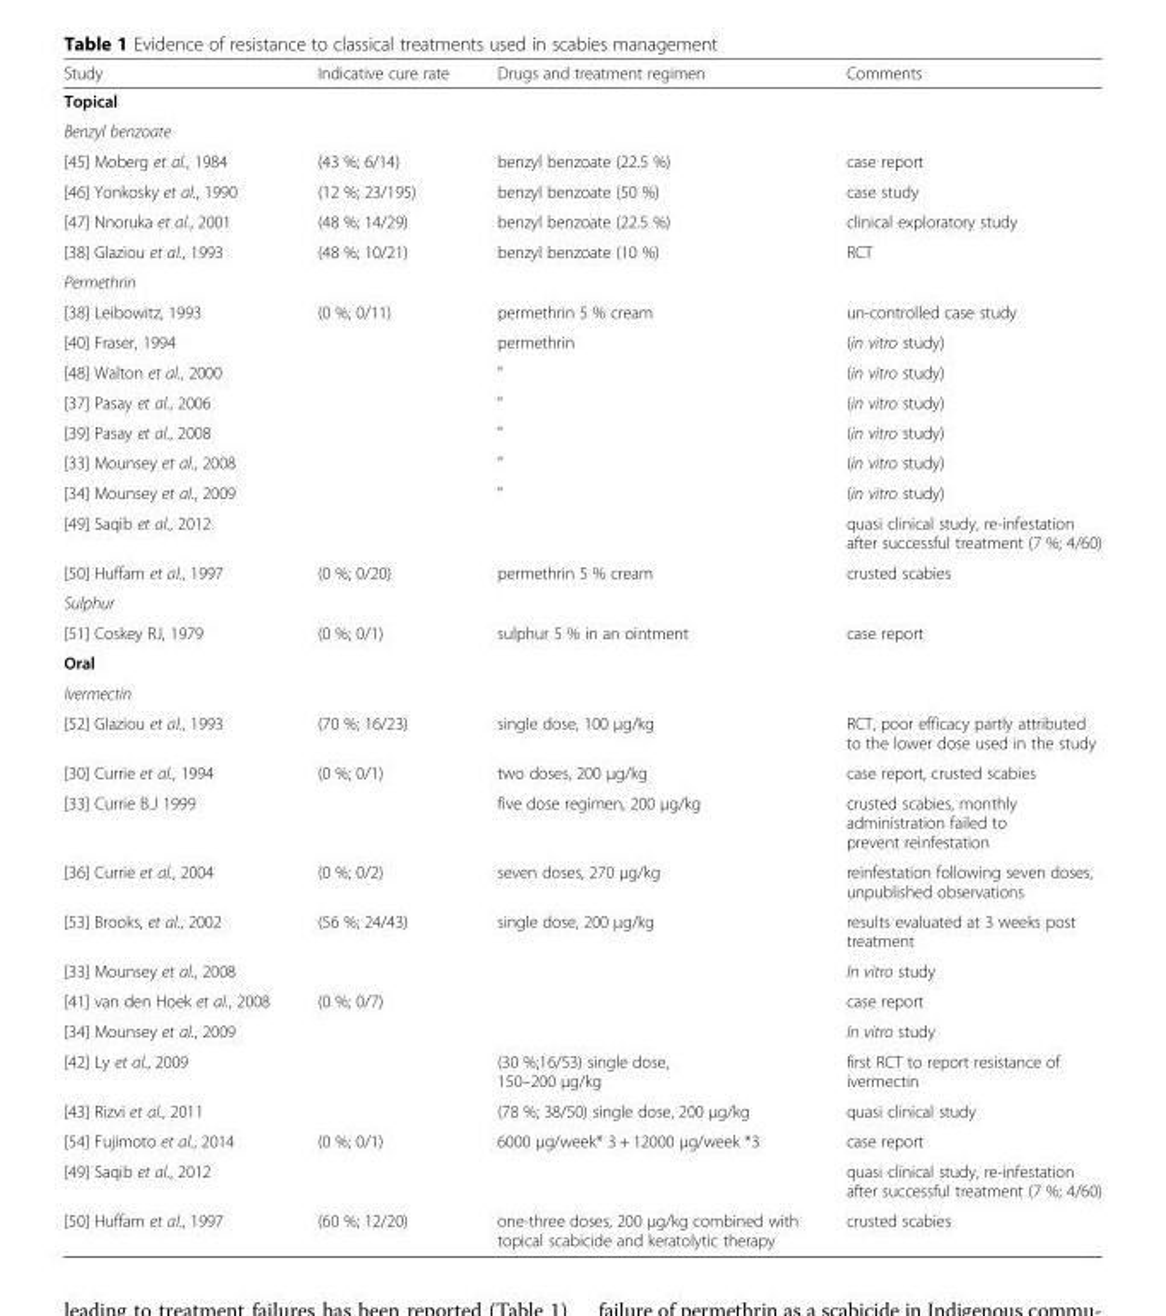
<table><thead><tr><td>Study</td><td>Indicative cure rate</td><td>Drugs and treatment regimen</td><td>Comments</td></tr></thead><tbody><tr><td colspan="4">Topical</td></tr><tr><td colspan="4">Benzyl benzoate</td></tr><tr><td>[45] Moberg et al., 1984</td><td>(43 %; 6/14)</td><td>benzyl benzoate (22.5 %)</td><td>case report</td></tr><tr><td>[46] Yonkosky et al., 1990</td><td>(12 %; 23/195)</td><td>benzyl benzoate (50 %)</td><td>case study</td></tr><tr><td>[47] Nnoruka et al., 2001</td><td>(48 %; 14/29)</td><td>benzyl benzoate (22.5 %)</td><td>clinical exploratory study</td></tr><tr><td>[38] Glaziou et al., 1993</td><td>(48 %; 10/21)</td><td>benzyl benzoate (10 %)</td><td>RCT</td></tr><tr><td colspan="4">Permethrin</td></tr><tr><td>[38] Leibowitz, 1993</td><td>(0 %; 0/11)</td><td>permethrin 5 % cream</td><td>un-controlled case study</td></tr><tr><td>[40] Fraser, 1994</td><td></td><td>permethrin</td><td>(in vitro study)</td></tr><tr><td>[48] Walton et al., 2000</td><td></td><td>&quot;</td><td>(in vitro study)</td></tr><tr><td>[37] Pasay et al., 2006</td><td></td><td>&quot;</td><td>(in vitro study)</td></tr><tr><td>[39] Pasay et al., 2008</td><td></td><td>&quot;</td><td>(in vitro study)</td></tr><tr><td>[33] Mounsey et al., 2008</td><td></td><td>&quot;</td><td>(in vitro study)</td></tr><tr><td>[34] Mounsey et al., 2009</td><td></td><td>&quot;</td><td>(in vitro study)</td></tr><tr><td>[49] Saqib et al., 2012</td><td></td><td></td><td>quasi clinical study, re-infestation after successful treatment (7 %; 4/60)</td></tr><tr><td>[50] Huffam et al., 1997</td><td>(0 %; 0/20)</td><td>permethrin 5 % cream</td><td>crusted scabies</td></tr><tr><td colspan="4">Sulphur</td></tr><tr><td>[51] Coskey RJ, 1979</td><td>(0 %; 0/1)</td><td>sulphur 5 % in an ointment</td><td>case report</td></tr><tr><td colspan="4">Oral</td></tr><tr><td colspan="4">Ivermectin</td></tr><tr><td>[52] Glaziou et al., 1993</td><td>(70 %; 16/23)</td><td>single dose, 100 μg/kg</td><td>RCT, poor efficacy partly attributed to the lower dose used in the study</td></tr><tr><td>[30] Currie et al., 1994</td><td>(0 %; 0/1)</td><td>two doses, 200 μg/kg</td><td>case report, crusted scabies</td></tr><tr><td>[33] Currie B.J 1999</td><td></td><td>five dose regimen, 200 μg/kg</td><td>crusted scabies, monthly administration failed to prevent reinfestation</td></tr><tr><td>[36] Currie et al., 2004</td><td>(0 %; 0/2)</td><td>seven doses, 270 μg/kg</td><td>reinfestation following seven doses, unpublished observations</td></tr><tr><td>[53] Brooks, et al., 2002</td><td>(56 %; 24/43)</td><td>single dose, 200 μg/kg</td><td>results evaluated at 3 weeks post treatment</td></tr><tr><td>[33] Mounsey et al., 2008</td><td></td><td></td><td>In vitro study</td></tr><tr><td>[41] van den Hoek et al., 2008</td><td>(0 %; 0/7)</td><td></td><td>case report</td></tr><tr><td>[34] Mounsey et al., 2009</td><td></td><td></td><td>In vitro study</td></tr><tr><td>[42] Ly et al., 2009</td><td></td><td>(30 %;16/53) single dose, 150–200 μg/kg</td><td>first RCT to report resistance of ivermectin</td></tr><tr><td>[43] Rizvi et al., 2011</td><td></td><td>(78 %; 38/50) single dose, 200 μg/kg</td><td>quasi clinical study</td></tr><tr><td>[54] Fujimoto et al., 2014</td><td>(0 %; 0/1)</td><td>6000 μg/week* 3 + 12000 μg/week *3</td><td>case report</td></tr><tr><td>[49] Saqib et al., 2012</td><td></td><td></td><td>quasi clinical study, re-infestation after successful treatment (7 %; 4/60)</td></tr><tr><td>[50] Huffam et al., 1997</td><td>(60 %; 12/20)</td><td>one-three doses, 200 μg/kg combined with topical scabicide and keratolytic therapy</td><td>crusted scabies</td></tr></tbody></table>